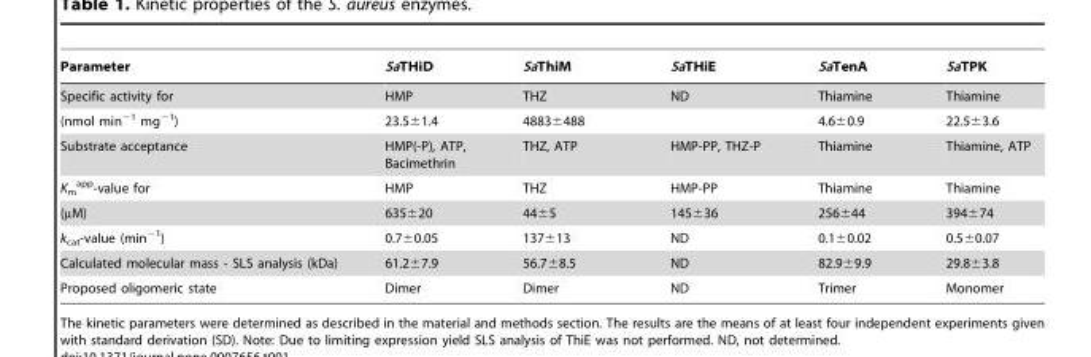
<table><thead><tr><td>Parameter</td><td>SaTHiD</td><td>SaThiM</td><td>SaTHiE</td><td>SaTenA</td><td>SaTPK</td></tr></thead><tbody><tr><td>Specific activity for</td><td>HMP</td><td>THZ</td><td>ND</td><td>Thiamine</td><td>Thiamine</td></tr><tr><td>(nmol min<sup>−1</sup> mg<sup>−1</sup>)</td><td>23.5±1.4</td><td>4883±488</td><td></td><td>4.6±0.9</td><td>22.5±3.6</td></tr><tr><td>Substrate acceptance</td><td>HMP(-P), ATP, Bacimethrin</td><td>THZ, ATP</td><td>HMP-PP, THZ-P</td><td>Thiamine</td><td>Thiamine, ATP</td></tr><tr><td>K<sub>m</sub> <sup>app</sup>-value for</td><td>HMP</td><td>THZ</td><td>HMP-PP</td><td>Thiamine</td><td>Thiamine</td></tr><tr><td>(µM)</td><td>635±20</td><td>44±5</td><td>145±36</td><td>256±44</td><td>394±74</td></tr><tr><td>k<sub>cat</sub>-value (min<sup>−1</sup>)</td><td>0.7±0.05</td><td>137±13</td><td>ND</td><td>0.1±0.02</td><td>0.5±0.07</td></tr><tr><td>Calculated molecular mass - SLS analysis (kDa)</td><td>61.2±7.9</td><td>56.7±8.5</td><td>ND</td><td>82.9±9.9</td><td>29.8±3.8</td></tr><tr><td>Proposed oligomeric state</td><td>Dimer</td><td>Dimer</td><td>ND</td><td>Trimer</td><td>Monomer</td></tr></tbody></table>